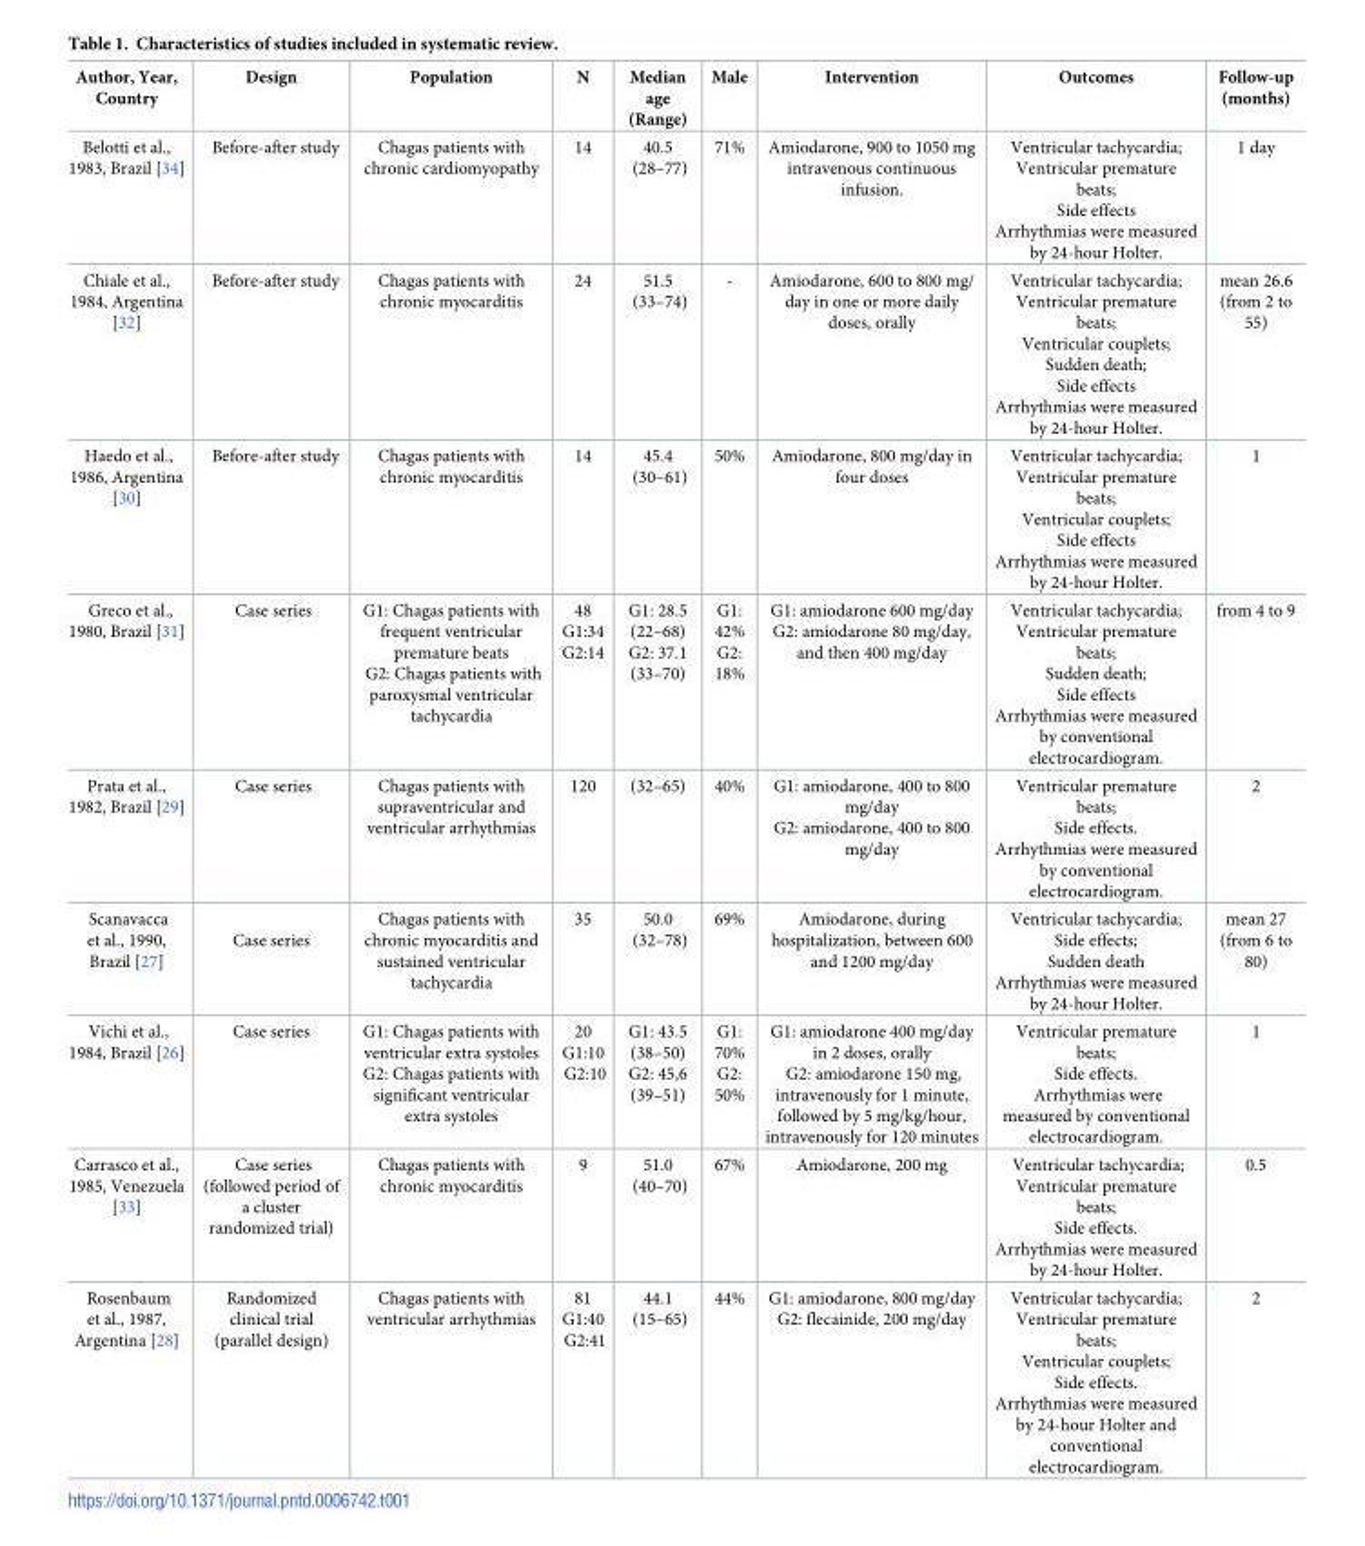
<table><thead><tr><td>Author, Year, Country</td><td>Design</td><td>Population</td><td>N</td><td>Median age (Range)</td><td>Male</td><td>Intervention</td><td>Outcomes</td><td>Follow-up (months)</td></tr></thead><tbody><tr><td>Belotti et al., 1983, Brazil [34]</td><td>Before-after study</td><td>Chagas patients with chronic cardiomyopathy</td><td>14</td><td>40.5 (28–77)</td><td>71%</td><td>Amiodarone, 900 to 1050 mg intravenous continuous infusion.</td><td>Ventricular tachycardia; Ventricular premature beats; Side effects Arrhythmias were measured by 24-hour Holter.</td><td>1 day</td></tr><tr><td>Chiale et al., 1984, Argentina [32]</td><td>Before-after study</td><td>Chagas patients with chronic myocarditis</td><td>24</td><td>51.5 (33–74)</td><td>-</td><td>Amiodarone, 600 to 800 mg/ day in one or more daily doses, orally</td><td>Ventricular tachycardia; Ventricular premature beats; Ventricular couplets; Sudden death; Side effects Arrhythmias were measured by 24-hour Holter.</td><td>mean 26.6 (from 2 to 55)</td></tr><tr><td>Haedo et al., 1986, Argentina [30]</td><td>Before-after study</td><td>Chagas patients with chronic myocarditis</td><td>14</td><td>45.4 (30–61)</td><td>50%</td><td>Amiodarone, 800 mg/day in four doses</td><td>Ventricular tachycardia; Ventricular premature beats; Ventricular couplets; Side effects Arrhythmias were measured by 24-hour Holter.</td><td>1</td></tr><tr><td>Greco et al., 1980, Brazil [31]</td><td>Case series</td><td>G1: Chagas patients with frequent ventricular premature beats G2: Chagas patients with paroxysmal ventricular tachycardia</td><td>48 G1:34 G2:14</td><td>G1: 28.5 (22–68) G2: 37.1 (33–70)</td><td>G1: 42% G2: 18%</td><td>G1: amiodarone 600 mg/day G2: amiodarone 80 mg/day, and then 400 mg/day</td><td>Ventricular tachycardia; Ventricular premature beats; Sudden death; Side effects Arrhythmias were measured by conventional electrocardiogram.</td><td>from 4 to 9</td></tr><tr><td>Prata et al., 1982, Brazil [29]</td><td>Case series</td><td>Chagas patients with supraventricular and ventricular arrhythmias</td><td>120</td><td>(32–65)</td><td>40%</td><td>G1: amiodarone, 400 to 800 mg/day G2: amiodarone, 400 to 800 mg/day</td><td>Ventricular premature beats; Side effects. Arrhythmias were measured by conventional electrocardiogram.</td><td>2</td></tr><tr><td>Scanavacca et al., 1990, Brazil [27]</td><td>Case series</td><td>Chagas patients with chronic myocarditis and sustained ventricular tachycardia</td><td>35</td><td>50.0 (32–78)</td><td>69%</td><td>Amiodarone, during hospitalization, between 600 and 1200 mg/day</td><td>Ventricular tachycardia; Side effects; Sudden death Arrhythmias were measured by 24-hour Holter.</td><td>mean 27 (from 6 to 80)</td></tr><tr><td>Vichi et al., 1984, Brazil [26]</td><td>Case series</td><td>G1: Chagas patients with ventricular extra systoles G2: Chagas patients with significant ventricular extra systoles</td><td>20 G1:10 G2:10</td><td>G1: 43.5 (38–50) G2: 45,6 (39–51)</td><td>G1: 70% G2: 50%</td><td>G1: amiodarone 400 mg/day in 2 doses, orally G2: amiodarone 150 mg, intravenously for 1 minute, followed by 5 mg/kg/hour, intravenously for 120 minutes</td><td>Ventricular premature beats; Side effects. Arrhythmias were measured by conventional electrocardiogram.</td><td>1</td></tr><tr><td>Carrasco et al., 1985, Venezuela [33]</td><td>Case series (followed period of a cluster randomized trial)</td><td>Chagas patients with chronic myocarditis</td><td>9</td><td>51.0 (40–70)</td><td>67%</td><td>Amiodarone, 200 mg</td><td>Ventricular tachycardia; Ventricular premature beats; Side effects. Arrhythmias were measured by 24-hour Holter.</td><td>0.5</td></tr><tr><td>Rosenbaum et al., 1987, Argentina [28]</td><td>Randomized clinical trial (parallel design)</td><td>Chagas patients with ventricular arrhythmias</td><td>81 G1:40 G2:41</td><td>44.1 (15–65)</td><td>44%</td><td>G1: amiodarone, 800 mg/day G2: flecainide, 200 mg/day</td><td>Ventricular tachycardia; Ventricular premature beats; Ventricular couplets; Side effects. Arrhythmias were measured by 24-hour Holter and conventional electrocardiogram.</td><td>2</td></tr></tbody></table>